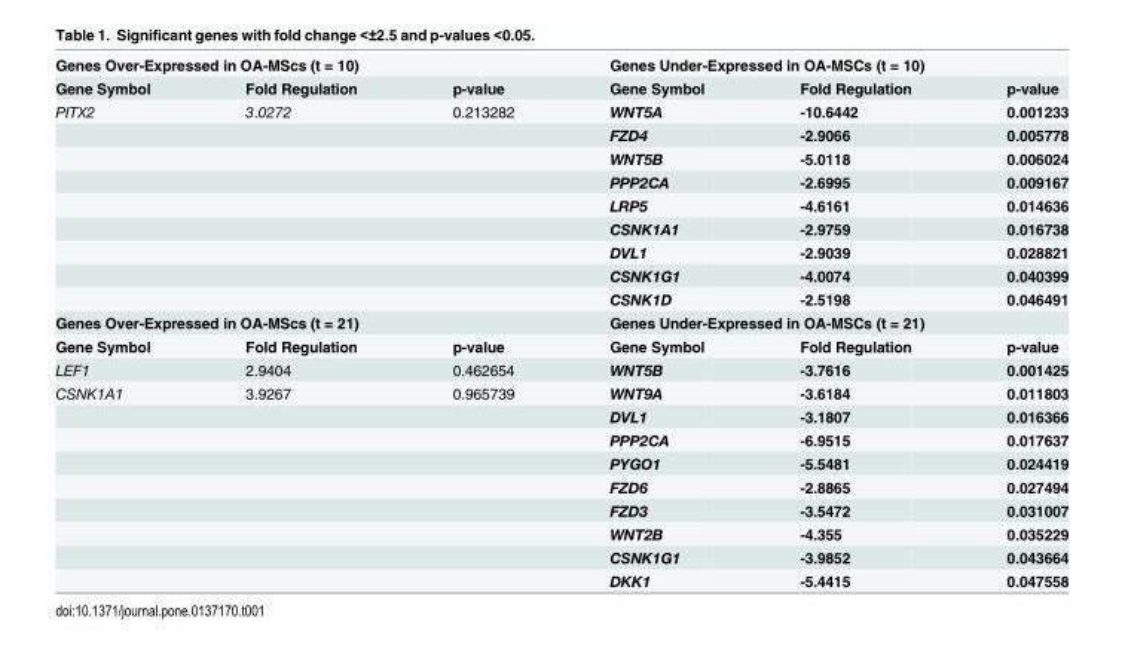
<table><tbody><tr><td colspan="3">Genes Over-Expressed in OA-MScs (t = 10)</td><td colspan="3">Genes Under-Expressed in OA-MSCs (t = 10)</td></tr><tr><td>Gene Symbol</td><td>Fold Regulation</td><td>p-value</td><td>Gene Symbol</td><td>Fold Regulation</td><td>p-value</td></tr><tr><td rowspan="9">PITX2</td><td>3.0272</td><td>0.213282</td><td>WNT5A</td><td>-10.6442</td><td>0.001233</td></tr><tr><td></td><td></td><td>FZD4</td><td>-2.9066</td><td>0.005778</td></tr><tr><td></td><td></td><td>WNT5B</td><td>-5.0118</td><td>0.006024</td></tr><tr><td></td><td></td><td>PPP2CA</td><td>-2.6995</td><td>0.009167</td></tr><tr><td></td><td></td><td>LRP5</td><td>-4.6161</td><td>0.014636</td></tr><tr><td></td><td></td><td>CSNK1A1</td><td>-2.9759</td><td>0.016738</td></tr><tr><td></td><td></td><td>DVL1</td><td>-2.9039</td><td>0.028821</td></tr><tr><td></td><td></td><td>CSNK1G1</td><td>-4.0074</td><td>0.040399</td></tr><tr><td></td><td></td><td>CSNK1D</td><td>-2.5198</td><td>0.046491</td></tr><tr><td colspan="3">Genes Over-Expressed in OA-MScs (t = 21)</td><td colspan="3">Genes Under-Expressed in OA-MSCs (t = 21)</td></tr><tr><td>Gene Symbol</td><td>Fold Regulation</td><td>p-value</td><td>Gene Symbol</td><td>Fold Regulation</td><td>p-value</td></tr><tr><td>LEF1</td><td>2.9404</td><td>0.462654</td><td>WNT5B</td><td>-3.7616</td><td>0.001425</td></tr><tr><td rowspan="9">CSNK1A1</td><td>3.9267</td><td>0.965739</td><td>WNT9A</td><td>-3.6184</td><td>0.011803</td></tr><tr><td></td><td></td><td>DVL1</td><td>-3.1807</td><td>0.016366</td></tr><tr><td></td><td></td><td>PPP2CA</td><td>-6.9515</td><td>0.017637</td></tr><tr><td></td><td></td><td>PYGO1</td><td>-5.5481</td><td>0.024419</td></tr><tr><td></td><td></td><td>FZD6</td><td>-2.8865</td><td>0.027494</td></tr><tr><td></td><td></td><td>FZD3</td><td>-3.5472</td><td>0.031007</td></tr><tr><td></td><td></td><td>WNT2B</td><td>-4.355</td><td>0.035229</td></tr><tr><td></td><td></td><td>CSNK1G1</td><td>-3.9852</td><td>0.043664</td></tr><tr><td></td><td></td><td>DKK1</td><td>-5.4415</td><td>0.047558</td></tr></tbody></table>